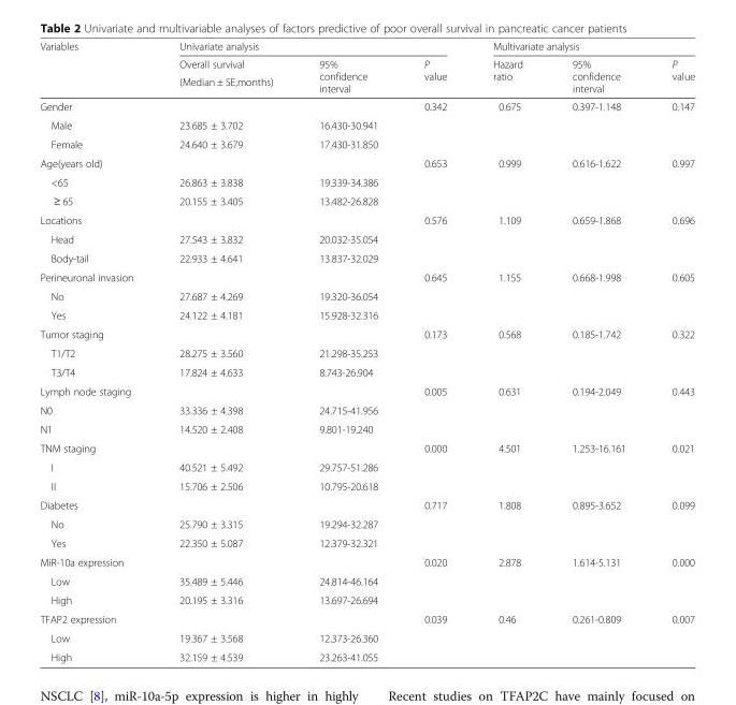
<table><thead><tr><td rowspan="3">Variables</td><td colspan="3">Univariate analysis</td><td colspan="3">Multivariate analysis</td></tr><tr><td rowspan="2">Overall survival (Median ± SE,months)</td><td rowspan="2">95% confidence interval</td><td rowspan="2">P value</td><td rowspan="2">Hazard ratio</td><td rowspan="2">95% confidence interval</td><td rowspan="2">P value</td></tr><tr></tr></thead><tbody><tr><td>Gender</td><td></td><td></td><td>0.342</td><td>0.675</td><td>0.397-1.148</td><td>0.147</td></tr><tr><td>Male</td><td>23.685 ± 3.702</td><td>16.430-30.941</td><td></td><td></td><td></td><td></td></tr><tr><td>Female</td><td>24.640 ± 3.679</td><td>17.430-31.850</td><td></td><td></td><td></td><td></td></tr><tr><td>Age(years old)</td><td></td><td></td><td>0.653</td><td>0.999</td><td>0.616-1.622</td><td>0.997</td></tr><tr><td>&lt;65</td><td>26.863 ± 3.838</td><td>19.339-34.386</td><td></td><td></td><td></td><td></td></tr><tr><td>≥ 65</td><td>20.155 ± 3.405</td><td>13.482-26.828</td><td></td><td></td><td></td><td></td></tr><tr><td>Locations</td><td></td><td></td><td>0.576</td><td>1.109</td><td>0.659-1.868</td><td>0.696</td></tr><tr><td>Head</td><td>27.543 ± 3.832</td><td>20.032-35.054</td><td></td><td></td><td></td><td></td></tr><tr><td>Body-tail</td><td>22.933 ± 4.641</td><td>13.837-32.029</td><td></td><td></td><td></td><td></td></tr><tr><td>Perineuronal invasion</td><td></td><td></td><td>0.645</td><td>1.155</td><td>0.668-1.998</td><td>0.605</td></tr><tr><td>No</td><td>27.687 ± 4.269</td><td>19.320-36.054</td><td></td><td></td><td></td><td></td></tr><tr><td>Yes</td><td>24.122 ± 4.181</td><td>15.928-32.316</td><td></td><td></td><td></td><td></td></tr><tr><td>Tumor staging</td><td></td><td></td><td>0.173</td><td>0.568</td><td>0.185-1.742</td><td>0.322</td></tr><tr><td>T1/T2</td><td>28.275 ± 3.560</td><td>21.298-35.253</td><td></td><td></td><td></td><td></td></tr><tr><td>T3/T4</td><td>17.824 ± 4.633</td><td>8.743-26.904</td><td></td><td></td><td></td><td></td></tr><tr><td>Lymph node staging</td><td></td><td></td><td>0.005</td><td>0.631</td><td>0.194-2.049</td><td>0.443</td></tr><tr><td>N0</td><td>33.336 ± 4.398</td><td>24.715-41.956</td><td></td><td></td><td></td><td></td></tr><tr><td>N1</td><td>14.520 ± 2.408</td><td>9.801-19.240</td><td></td><td></td><td></td><td></td></tr><tr><td>TNM staging</td><td></td><td></td><td>0.000</td><td>4.501</td><td>1.253-16.161</td><td>0.021</td></tr><tr><td>I</td><td>40.521 ± 5.492</td><td>29.757-51.286</td><td></td><td></td><td></td><td></td></tr><tr><td>II</td><td>15.706 ± 2.506</td><td>10.795-20.618</td><td></td><td></td><td></td><td></td></tr><tr><td>Diabetes</td><td></td><td></td><td>0.717</td><td>1.808</td><td>0.895-3.652</td><td>0.099</td></tr><tr><td>No</td><td>25.790 ± 3.315</td><td>19.294-32.287</td><td></td><td></td><td></td><td></td></tr><tr><td>Yes</td><td>22.350 ± 5.087</td><td>12.379-32.321</td><td></td><td></td><td></td><td></td></tr><tr><td>MiR-10a expression</td><td></td><td></td><td>0.020</td><td>2.878</td><td>1.614-5.131</td><td>0.000</td></tr><tr><td>Low</td><td>35.489 ± 5.446</td><td>24.814-46.164</td><td></td><td></td><td></td><td></td></tr><tr><td>High</td><td>20.195 ± 3.316</td><td>13.697-26.694</td><td></td><td></td><td></td><td></td></tr><tr><td>TFAP2 expression</td><td></td><td></td><td>0.039</td><td>0.46</td><td>0.261-0.809</td><td>0.007</td></tr><tr><td>Low</td><td>19.367 ± 3.568</td><td>12.373-26.360</td><td></td><td></td><td></td><td></td></tr><tr><td>High</td><td>32.159 ± 4.539</td><td>23.263-41.055</td><td></td><td></td><td></td><td></td></tr></tbody></table>